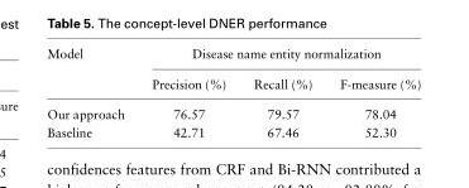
<table><thead><tr><td rowspan="2">Model</td><td colspan="3">Disease name entity normalization</td></tr><tr><td>Precision (%)</td><td>Recall (%)</td><td>F-measure (%)</td></tr></thead><tbody><tr><td>Our approach</td><td>76.57</td><td>79.57</td><td>78.04</td></tr><tr><td>Baseline</td><td>42.71</td><td>67.46</td><td>52.30</td></tr></tbody></table>